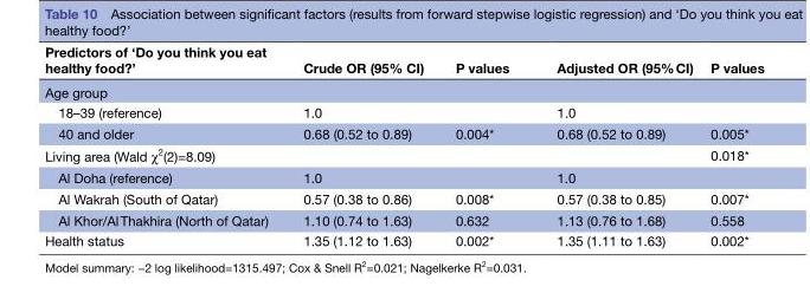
<table><thead><tr><td>Predictors of ‘Do you think you eat healthy food?’</td><td>Crude OR (95% CI)</td><td>P values</td><td>Adjusted OR (95% CI)</td><td>P values</td></tr></thead><tbody><tr><td colspan="5">Age group</td></tr><tr><td>18–39 (reference)</td><td>1.0</td><td></td><td>1.0</td><td></td></tr><tr><td>40 and older</td><td>0.68 (0.52 to 0.89)</td><td>0.004*</td><td>0.68 (0.52 to 0.89)</td><td>0.005*</td></tr><tr><td>Living area (Wald χ<sup>2</sup>(2)=8.09)</td><td></td><td></td><td></td><td>0.018*</td></tr><tr><td>Al Doha (reference)</td><td>1.0</td><td></td><td>1.0</td><td></td></tr><tr><td>Al Wakrah (South of Qatar)</td><td>0.57 (0.38 to 0.86)</td><td>0.008*</td><td>0.57 (0.38 to 0.85)</td><td>0.007*</td></tr><tr><td>Al Khor/Al Thakhira (North of Qatar)</td><td>1.10 (0.74 to 1.63)</td><td>0.632</td><td>1.13 (0.76 to 1.68)</td><td>0.558</td></tr><tr><td>Health status</td><td>1.35 (1.12 to 1.63)</td><td>0.002*</td><td>1.35 (1.11 to 1.63)</td><td>0.002*</td></tr></tbody></table>